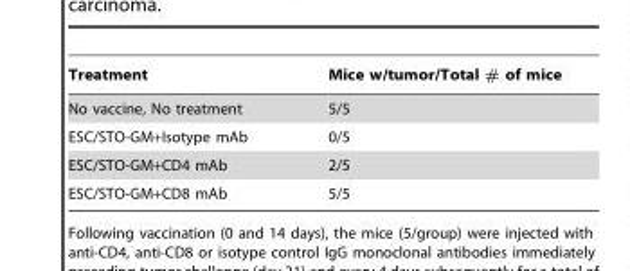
<table><thead><tr><td>Treatment</td><td>Mice w/tumor/Total # of mice</td></tr></thead><tbody><tr><td>No vaccine, No treatment</td><td>5/5</td></tr><tr><td>ESC/STO-GM+Isotype mAb</td><td>0/5</td></tr><tr><td>ESC/STO-GM+CD4 mAb</td><td>2/5</td></tr><tr><td>ESC/STO-GM+CD8 mAb</td><td>5/5</td></tr></tbody></table>